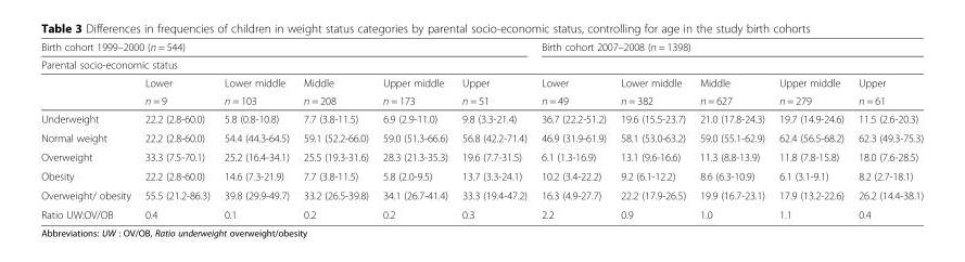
<table><thead><tr><td colspan="6">Birth cohort 1999–2000 (n = 544)</td><td colspan="5">Birth cohort 2007–2008 (n = 1398)</td></tr><tr><td colspan="11">Parental socio-economic status</td></tr><tr><td rowspan="2"></td><td rowspan="2">Lower n = 9</td><td rowspan="2">Lower middle n = 103</td><td rowspan="2">Middle n = 208</td><td rowspan="2">Upper middle n = 173</td><td rowspan="2">Upper n = 51</td><td rowspan="2">Lower n = 49</td><td rowspan="2">Lower middle n = 382</td><td rowspan="2">Middle n = 627</td><td rowspan="2">Upper middle n = 279</td><td rowspan="2">Upper n = 61</td></tr><tr></tr></thead><tbody><tr><td>Underweight</td><td>22.2 (2.8-60.0)</td><td>5.8 (0.8-10.8)</td><td>7.7 (3.8-11.5)</td><td>6.9 (2.9-11.0)</td><td>9.8 (3.3-21.4)</td><td>36.7 (22.2-51.2)</td><td>19.6 (15.5-23.7)</td><td>21.0 (17.8-24.3)</td><td>19.7 (14.9-24.6)</td><td>11.5 (2.6-20.3)</td></tr><tr><td>Normal weight</td><td>22.2 (2.8-60.0)</td><td>54.4 (44.3-64.5)</td><td>59.1 (52.2-66.0)</td><td>59.0 (51.3-66.6)</td><td>56.8 (42.2-71.4)</td><td>46.9 (31.9-61.9)</td><td>58.1 (53.0-63.2)</td><td>59.0 (55.1-62.9)</td><td>62.4 (56.5-68.2)</td><td>62.3 (49.3-75.3)</td></tr><tr><td>Overweight</td><td>33.3 (7.5-70.1)</td><td>25.2 (16.4-34.1)</td><td>25.5 (19.3-31.6)</td><td>28.3 (21.3-35.3)</td><td>19.6 (7.7-31.5)</td><td>6.1 (1.3-16.9)</td><td>13.1 (9.6-16.6)</td><td>11.3 (8.8-13.9)</td><td>11.8 (7.8-15.8)</td><td>18.0 (7.6-28.5)</td></tr><tr><td>Obesity</td><td>22.2 (2.8-60.0)</td><td>14.6 (7.3-21.9)</td><td>7.7 (3.8-11.5)</td><td>5.8 (2.0-9.5)</td><td>13.7 (3.3-24.1)</td><td>10.2 (3.4-22.2)</td><td>9.2 (6.1-12.2)</td><td>8.6 (6.3-10.9)</td><td>6.1 (3.1-9.1)</td><td>8.2 (2.7-18.1)</td></tr><tr><td>Overweight/ obesity</td><td>55.5 (21.2-86.3)</td><td>39.8 (29.9-49.7)</td><td>33.2 (26.5-39.8)</td><td>34.1 (26.7-41.4)</td><td>33.3 (19.4-47.2)</td><td>16.3 (4.9-27.7)</td><td>22.2 (17.9-26.5)</td><td>19.9 (16.7-23.1)</td><td>17.9 (13.2-22.6)</td><td>26.2 (14.4-38.1)</td></tr><tr><td>Ratio UW:OV/OB</td><td>0.4</td><td>0.1</td><td>0.2</td><td>0.2</td><td>0.3</td><td>2.2</td><td>0.9</td><td>1.0</td><td>1.1</td><td>0.4</td></tr></tbody></table>